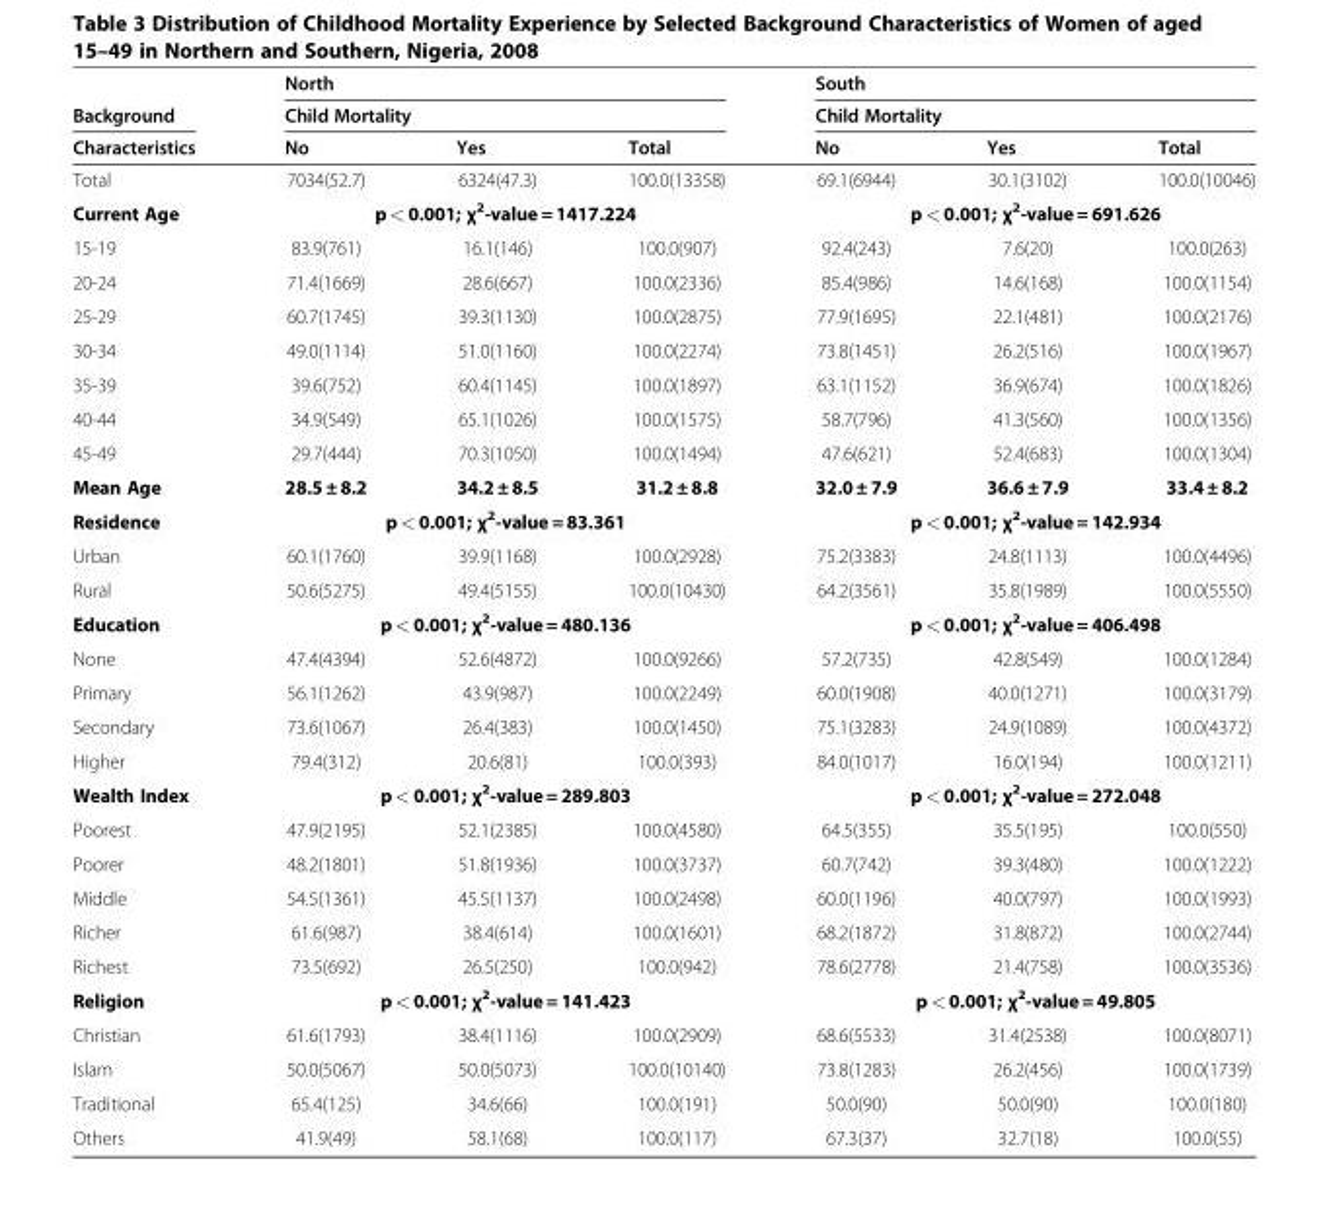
<table><thead><tr><td rowspan="3">Background Characteristics</td><td rowspan="2" colspan="3">North Child Mortality</td><td rowspan="2" colspan="3">South Child Mortality</td></tr><tr></tr><tr><td>No</td><td>Yes</td><td>Total</td><td>No</td><td>Yes</td><td>Total</td></tr></thead><tbody><tr><td>Total</td><td>7034(52.7)</td><td>6324(47.3)</td><td>100.0(13358)</td><td>69.1(6944)</td><td>30.1(3102)</td><td>100.0(10046)</td></tr><tr><td>Current Age</td><td colspan="3">p &lt; 0.001; χ<sup>2</sup>-value = 1417.224</td><td colspan="3">p &lt; 0.001; χ<sup>2</sup>-value = 691.626</td></tr><tr><td>15-19</td><td>83.9(761)</td><td>16.1(146)</td><td>100.0(907)</td><td>92.4(243)</td><td>7.6(20)</td><td>100.0(263)</td></tr><tr><td>20-24</td><td>71.4(1669)</td><td>28.6(667)</td><td>100.0(2336)</td><td>85.4(986)</td><td>14.6(168)</td><td>100.0(1154)</td></tr><tr><td>25-29</td><td>60.7(1745)</td><td>39.3(1130)</td><td>100.0(2875)</td><td>77.9(1695)</td><td>22.1(481)</td><td>100.0(2176)</td></tr><tr><td>30-34</td><td>49.0(1114)</td><td>51.0(1160)</td><td>100.0(2274)</td><td>73.8(1451)</td><td>26.2(516)</td><td>100.0(1967)</td></tr><tr><td>35-39</td><td>39.6(752)</td><td>60.4(1145)</td><td>100.0(1897)</td><td>63.1(1152)</td><td>36.9(674)</td><td>100.0(1826)</td></tr><tr><td>40-44</td><td>34.9(549)</td><td>65.1(1026)</td><td>100.0(1575)</td><td>58.7(796)</td><td>41.3(560)</td><td>100.0(1356)</td></tr><tr><td>45-49</td><td>29.7(444)</td><td>70.3(1050)</td><td>100.0(1494)</td><td>47.6(621)</td><td>52.4(683)</td><td>100.0(1304)</td></tr><tr><td>Mean Age</td><td>28.5 ± 8.2</td><td>34.2 ± 8.5</td><td>31.2 ± 8.8</td><td>32.0 ± 7.9</td><td>36.6 ± 7.9</td><td>33.4 ± 8.2</td></tr><tr><td>Residence</td><td colspan="3">p &lt; 0.001; χ<sup>2</sup>-value = 83.361</td><td colspan="3">p &lt; 0.001; χ<sup>2</sup>-value = 142.934</td></tr><tr><td>Urban</td><td>60.1(1760)</td><td>39.9(1168)</td><td>100.0(2928)</td><td>75.2(3383)</td><td>24.8(1113)</td><td>100.0(4496)</td></tr><tr><td>Rural</td><td>50.6(5275)</td><td>49.4(5155)</td><td>100.0(10430)</td><td>64.2(3561)</td><td>35.8(1989)</td><td>100.0(5550)</td></tr><tr><td>Education</td><td colspan="3">p &lt; 0.001; χ<sup>2</sup>-value = 480.136</td><td colspan="3">p &lt; 0.001; χ<sup>2</sup>-value = 406.498</td></tr><tr><td>None</td><td>47.4(4394)</td><td>52.6(4872)</td><td>100.0(9266)</td><td>57.2(735)</td><td>42.8(549)</td><td>100.0(1284)</td></tr><tr><td>Primary</td><td>56.1(1262)</td><td>43.9(987)</td><td>100.0(2249)</td><td>60.0(1908)</td><td>40.0(1271)</td><td>100.0(3179)</td></tr><tr><td>Secondary</td><td>73.6(1067)</td><td>26.4(383)</td><td>100.0(1450)</td><td>75.1(3283)</td><td>24.9(1089)</td><td>100.0(4372)</td></tr><tr><td>Higher</td><td>79.4(312)</td><td>20.6(81)</td><td>100.0(393)</td><td>84.0(1017)</td><td>16.0(194)</td><td>100.0(1211)</td></tr><tr><td>Wealth Index</td><td colspan="3">p &lt; 0.001; χ<sup>2</sup>-value = 289.803</td><td colspan="3">p &lt; 0.001; χ<sup>2</sup>-value = 272.048</td></tr><tr><td>Poorest</td><td>47.9(2195)</td><td>52.1(2385)</td><td>100.0(4580)</td><td>64.5(355)</td><td>35.5(195)</td><td>100.0(550)</td></tr><tr><td>Poorer</td><td>48.2(1801)</td><td>51.8(1936)</td><td>100.0(3737)</td><td>60.7(742)</td><td>39.3(480)</td><td>100.0(1222)</td></tr><tr><td>Middle</td><td>54.5(1361)</td><td>45.5(1137)</td><td>100.0(2498)</td><td>60.0(1196)</td><td>40.0(797)</td><td>100.0(1993)</td></tr><tr><td>Richer</td><td>61.6(987)</td><td>38.4(614)</td><td>100.0(1601)</td><td>68.2(1872)</td><td>31.8(872)</td><td>100.0(2744)</td></tr><tr><td>Richest</td><td>73.5(692)</td><td>26.5(250)</td><td>100.0(942)</td><td>78.6(2778)</td><td>21.4(758)</td><td>100.0(3536)</td></tr><tr><td>Religion</td><td colspan="3">p &lt; 0.001; χ<sup>2</sup>-value = 141.423</td><td colspan="3">p &lt; 0.001; χ<sup>2</sup>-value = 49.805</td></tr><tr><td>Christian</td><td>61.6(1793)</td><td>38.4(1116)</td><td>100.0(2909)</td><td>68.6(5533)</td><td>31.4(2538)</td><td>100.0(8071)</td></tr><tr><td>Islam</td><td>50.0(5067)</td><td>50.0(5073)</td><td>100.0(10140)</td><td>73.8(1283)</td><td>26.2(456)</td><td>100.0(1739)</td></tr><tr><td>Traditional</td><td>65.4(125)</td><td>34.6(66)</td><td>100.0(191)</td><td>50.0(90)</td><td>50.0(90)</td><td>100.0(180)</td></tr><tr><td>Others</td><td>41.9(49)</td><td>58.1(68)</td><td>100.0(117)</td><td>67.3(37)</td><td>32.7(18)</td><td>100.0(55)</td></tr></tbody></table>